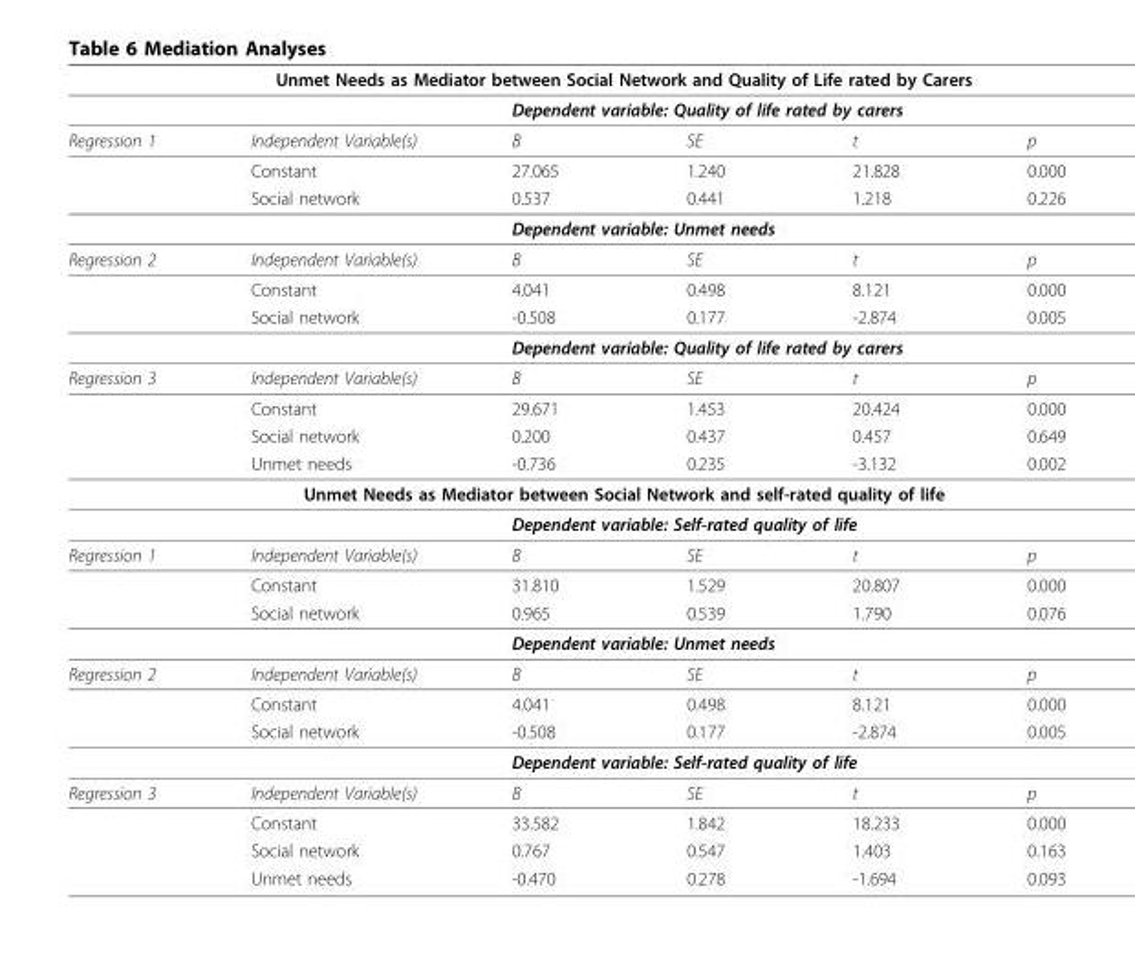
<table><thead><tr><td colspan="6">Unmet Needs as Mediator between Social Network and Quality of Life rated by Carers</td></tr><tr><td rowspan="2">Regression 1</td><td rowspan="2">Independent Variable(s)</td><td colspan="4">Dependent variable: Quality of life rated by carers</td></tr><tr><td>B</td><td>SE</td><td>t</td><td>p</td></tr></thead><tbody><tr><td></td><td>Constant</td><td>27.065</td><td>1.240</td><td>21.828</td><td>0.000</td></tr><tr><td></td><td>Social network</td><td>0.537</td><td>0.441</td><td>1.218</td><td>0.226</td></tr><tr><td></td><td></td><td colspan="4">Dependent variable: Unmet needs</td></tr><tr><td rowspan="4">Regression 2</td><td>Independent Variable(s)</td><td>B</td><td>SE</td><td>t</td><td>p</td></tr><tr><td>Constant</td><td>4.041</td><td>0.498</td><td>8.121</td><td>0.000</td></tr><tr><td>Social network</td><td>-0.508</td><td>0.177</td><td>-2.874</td><td>0.005</td></tr><tr><td></td><td colspan="4">Dependent variable: Quality of life rated by carers</td></tr><tr><td rowspan="4">Regression 3</td><td>Independent Variable(s)</td><td>B</td><td>SE</td><td>t</td><td>p</td></tr><tr><td>Constant</td><td>29.671</td><td>1.453</td><td>20.424</td><td>0.000</td></tr><tr><td>Social network</td><td>0.200</td><td>0.437</td><td>0.457</td><td>0.649</td></tr><tr><td>Unmet needs</td><td>-0.736</td><td>0.235</td><td>-3.132</td><td>0.002</td></tr><tr><td colspan="6">Unmet Needs as Mediator between Social Network and self-rated quality of life</td></tr><tr><td></td><td></td><td colspan="4">Dependent variable: Self-rated quality of life</td></tr><tr><td rowspan="4">Regression 1</td><td>Independent Variable(s)</td><td>B</td><td>SE</td><td>t</td><td>p</td></tr><tr><td>Constant</td><td>31.810</td><td>1.529</td><td>20.807</td><td>0.000</td></tr><tr><td>Social network</td><td>0.965</td><td>0.539</td><td>1.790</td><td>0.076</td></tr><tr><td></td><td colspan="4">Dependent variable: Unmet needs</td></tr><tr><td rowspan="4">Regression 2</td><td>Independent Variable(s)</td><td>B</td><td>SE</td><td>t</td><td>p</td></tr><tr><td>Constant</td><td>4.041</td><td>0.498</td><td>8.121</td><td>0.000</td></tr><tr><td>Social network</td><td>-0.508</td><td>0.177</td><td>-2.874</td><td>0.005</td></tr><tr><td></td><td colspan="4">Dependent variable: Self-rated quality of life</td></tr><tr><td rowspan="4">Regression 3</td><td>Independent Variable(s)</td><td>B</td><td>SE</td><td>t</td><td>p</td></tr><tr><td>Constant</td><td>33.582</td><td>1.842</td><td>18.233</td><td>0.000</td></tr><tr><td>Social network</td><td>0.767</td><td>0.547</td><td>1.403</td><td>0.163</td></tr><tr><td>Unmet needs</td><td>-0.470</td><td>0.278</td><td>-1.694</td><td>0.093</td></tr></tbody></table>